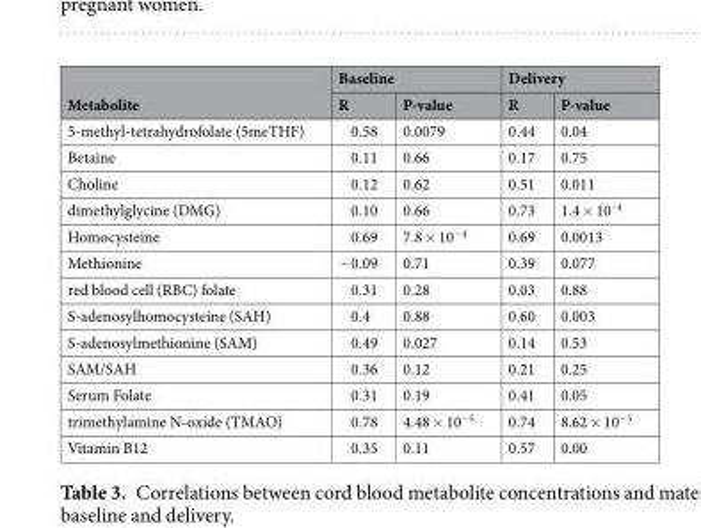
<table><thead><tr><td rowspan="2">Metabolite</td><td colspan="2">Baseline</td><td colspan="2">Delivery</td></tr><tr><td>R</td><td>P-value</td><td>R</td><td>P-value</td></tr></thead><tbody><tr><td>5-methyl-tetrahydrofolate (5meTHF)</td><td>0.58</td><td>0.0079</td><td>0.44</td><td>0.04</td></tr><tr><td>Betaine</td><td>0.11</td><td>0.66</td><td>0.17</td><td>0.75</td></tr><tr><td>Choline</td><td>0.12</td><td>0.62</td><td>0.51</td><td>0.011</td></tr><tr><td>dimethylglycine (DMG)</td><td>0.10</td><td>0.66</td><td>0.73</td><td>1.4 × 10<sup>–4</sup></td></tr><tr><td>Homocysteine</td><td>0.69</td><td>7.8 × 10<sup>−4</sup></td><td>0.69</td><td>0.0013</td></tr><tr><td>Methionine</td><td>−0.09</td><td>0.71</td><td>0.39</td><td>0.077</td></tr><tr><td>red blood cell (RBC) folate</td><td>0.31</td><td>0.28</td><td>0.03</td><td>0.88</td></tr><tr><td>S-adenosylhomocysteine (SAH)</td><td>0.4</td><td>0.88</td><td>0.60</td><td>0.003</td></tr><tr><td>S-adenosylmethionine (SAM)</td><td>0.49</td><td>0.027</td><td>0.14</td><td>0.53</td></tr><tr><td>SAM/SAH</td><td>0.36</td><td>0.12</td><td>0.21</td><td>0.25</td></tr><tr><td>Serum Folate</td><td>0.31</td><td>0.19</td><td>0.41</td><td>0.05</td></tr><tr><td>trimethylamine N-oxide (TMAO)</td><td>0.78</td><td>4.48 × 10<sup>−5</sup></td><td>0.74</td><td>8.62 × 10<sup>−5</sup></td></tr><tr><td>Vitamin B12</td><td>0.35</td><td>0.11</td><td>0.57</td><td>0.00</td></tr></tbody></table>